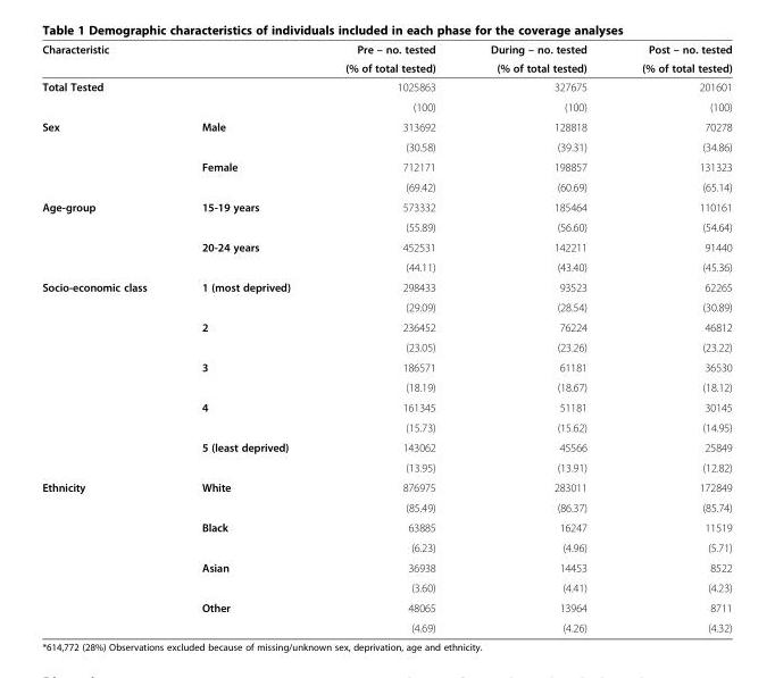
<table><thead><tr><td rowspan="2">Characteristic</td><td rowspan="2"></td><td rowspan="2">Pre – no. tested (% of total tested)</td><td rowspan="2">During – no. tested (% of total tested)</td><td rowspan="2">Post – no. tested (% of total tested)</td></tr><tr></tr></thead><tbody><tr><td rowspan="2" colspan="2">Total Tested</td><td>1025863</td><td>327675</td><td>201601</td></tr><tr><td>(100)</td><td>(100)</td><td>(100)</td></tr><tr><td rowspan="4">Sex</td><td rowspan="2">Male</td><td>313692</td><td>128818</td><td>70278</td></tr><tr><td>(30.58)</td><td>(39.31)</td><td>(34.86)</td></tr><tr><td rowspan="2">Female</td><td>712171</td><td>198857</td><td>131323</td></tr><tr><td>(69.42)</td><td>(60.69)</td><td>(65.14)</td></tr><tr><td rowspan="4">Age-group</td><td rowspan="2">15-19 years</td><td>573332</td><td>185464</td><td>110161</td></tr><tr><td>(55.89)</td><td>(56.60)</td><td>(54.64)</td></tr><tr><td rowspan="2">20-24 years</td><td>452531</td><td>142211</td><td>91440</td></tr><tr><td>(44.11)</td><td>(43.40)</td><td>(45.36)</td></tr><tr><td rowspan="10">Socio-economic class</td><td rowspan="2">1 (most deprived)</td><td>298433</td><td>93523</td><td>62265</td></tr><tr><td>(29.09)</td><td>(28.54)</td><td>(30.89)</td></tr><tr><td rowspan="2">2</td><td>236452</td><td>76224</td><td>46812</td></tr><tr><td>(23.05)</td><td>(23.26)</td><td>(23.22)</td></tr><tr><td rowspan="2">3</td><td>186571</td><td>61181</td><td>36530</td></tr><tr><td>(18.19)</td><td>(18.67)</td><td>(18.12)</td></tr><tr><td rowspan="2">4</td><td>161345</td><td>51181</td><td>30145</td></tr><tr><td>(15.73)</td><td>(15.62)</td><td>(14.95)</td></tr><tr><td rowspan="2">5 (least deprived)</td><td>143062</td><td>45566</td><td>25849</td></tr><tr><td>(13.95)</td><td>(13.91)</td><td>(12.82)</td></tr><tr><td rowspan="8">Ethnicity</td><td rowspan="2">White</td><td>876975</td><td>283011</td><td>172849</td></tr><tr><td>(85.49)</td><td>(86.37)</td><td>(85.74)</td></tr><tr><td rowspan="2">Black</td><td>63885</td><td>16247</td><td>11519</td></tr><tr><td>(6.23)</td><td>(4.96)</td><td>(5.71)</td></tr><tr><td rowspan="2">Asian</td><td>36938</td><td>14453</td><td>8522</td></tr><tr><td>(3.60)</td><td>(4.41)</td><td>(4.23)</td></tr><tr><td>Other</td><td>48065</td><td>13964</td><td>8711</td></tr><tr><td></td><td>(4.69)</td><td>(4.26)</td><td>(4.32)</td></tr></tbody></table>